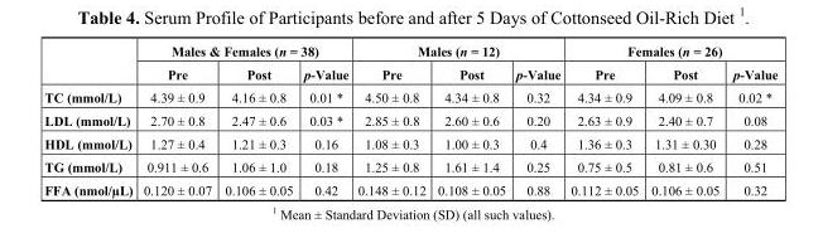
<table><thead><tr><td rowspan="2"></td><td colspan="3">Males &amp; Females (n = 38)</td><td colspan="3">Males (n = 12)</td><td colspan="3">Females (n = 26)</td></tr><tr><td>Pre</td><td>Post</td><td>p-Value</td><td>Pre</td><td>Post</td><td>p-Value</td><td>Pre</td><td>Post</td><td>p-Value</td></tr></thead><tbody><tr><td>TC (mmol/L)</td><td>4.39 ± 0.9</td><td>4.16 ± 0.8</td><td>0.01 *</td><td>4.50 ± 0.8</td><td>4.34 ± 0.8</td><td>0.32</td><td>4.34 ± 0.9</td><td>4.09 ± 0.8</td><td>0.02 *</td></tr><tr><td>LDL (mmol/L)</td><td>2.70 ± 0.8</td><td>2.47 ± 0.6</td><td>0.03 *</td><td>2.85 ± 0.8</td><td>2.60 ± 0.6</td><td>0.20</td><td>2.63 ± 0.9</td><td>2.40 ± 0.7</td><td>0.08</td></tr><tr><td>HDL (mmol/L)</td><td>1.27 ± 0.4</td><td>1.21 ± 0.3</td><td>0.16</td><td>1.08 ± 0.3</td><td>1.00 ± 0.3</td><td>0.4</td><td>1.36 ± 0.3</td><td>1.31 ± 0.30</td><td>0.28</td></tr><tr><td>TG (mmol/L)</td><td>0.911 ± 0.6</td><td>1.06 ± 1.0</td><td>0.18</td><td>1.25 ± 0.8</td><td>1.61 ± 1.4</td><td>0.25</td><td>0.75 ± 0.5</td><td>0.81 ± 0.6</td><td>0.51</td></tr><tr><td>FFA (nmol/µL)</td><td>0.120 ± 0.07</td><td>0.106 ± 0.05</td><td>0.42</td><td>0.148 ± 0.12</td><td>0.108 ± 0.05</td><td>0.88</td><td>0.112 ± 0.05</td><td>0.106 ± 0.05</td><td>0.32</td></tr></tbody></table>